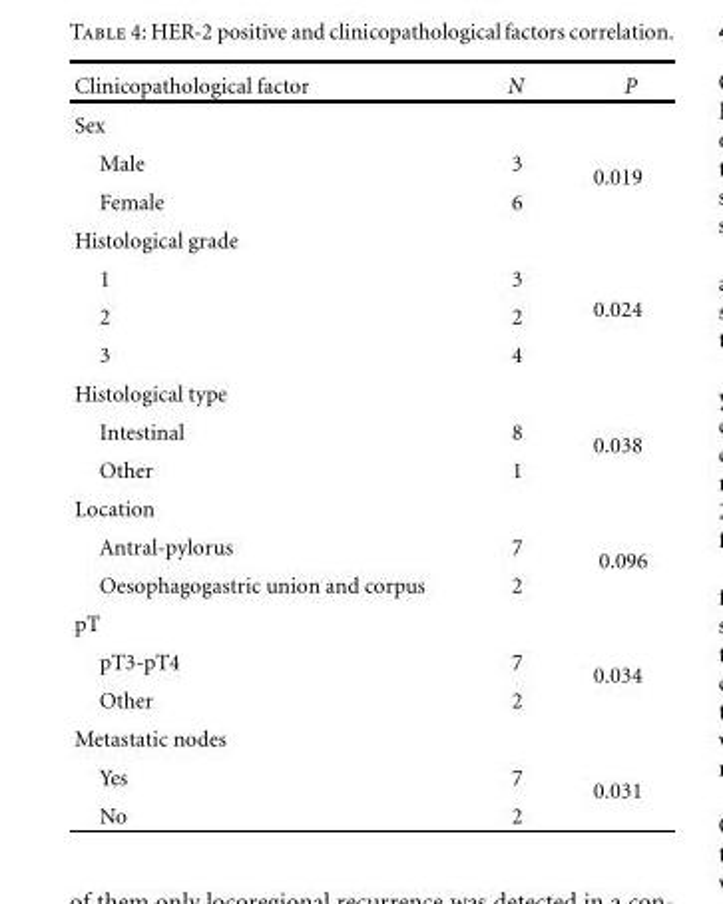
<table><thead><tr><td>Clinicopathological factor</td><td>N</td><td>P</td></tr></thead><tbody><tr><td colspan="3">Sex</td></tr><tr><td>Male</td><td>3</td><td rowspan="2">0.019</td></tr><tr><td>Female</td><td>6</td></tr><tr><td colspan="3">Histological grade</td></tr><tr><td>1</td><td>3</td><td rowspan="3">0.024</td></tr><tr><td>2</td><td>2</td></tr><tr><td>3</td><td>4</td></tr><tr><td colspan="3">Histological type</td></tr><tr><td>Intestinal</td><td>8</td><td rowspan="2">0.038</td></tr><tr><td>Other</td><td>1</td></tr><tr><td colspan="3">Location</td></tr><tr><td>Antral-pylorus</td><td>7</td><td rowspan="2">0.096</td></tr><tr><td>Oesophagogastric union and corpus</td><td>2</td></tr><tr><td colspan="3">pT</td></tr><tr><td>pT3-pT4</td><td>7</td><td rowspan="2">0.034</td></tr><tr><td>Other</td><td>2</td></tr><tr><td colspan="3">Metastatic nodes</td></tr><tr><td>Yes</td><td>7</td><td rowspan="2">0.031</td></tr><tr><td>No</td><td>2</td></tr></tbody></table>